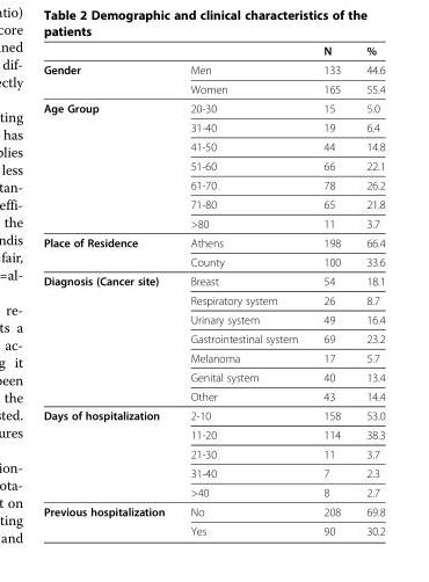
<table><thead><tr><td></td><td></td><td>Ν</td><td>%</td></tr></thead><tbody><tr><td rowspan="2">Gender</td><td>Men</td><td>133</td><td>44.6</td></tr><tr><td>Women</td><td>165</td><td>55.4</td></tr><tr><td rowspan="7">Age Group</td><td>20-30</td><td>15</td><td>5.0</td></tr><tr><td>31-40</td><td>19</td><td>6.4</td></tr><tr><td>41-50</td><td>44</td><td>14.8</td></tr><tr><td>51-60</td><td>66</td><td>22.1</td></tr><tr><td>61-70</td><td>78</td><td>26.2</td></tr><tr><td>71-80</td><td>65</td><td>21.8</td></tr><tr><td>&gt;80</td><td>11</td><td>3.7</td></tr><tr><td rowspan="2">Place of Residence</td><td>Athens</td><td>198</td><td>66.4</td></tr><tr><td>County</td><td>100</td><td>33.6</td></tr><tr><td rowspan="7">Diagnosis (Cancer site)</td><td>Breast</td><td>54</td><td>18.1</td></tr><tr><td>Respiratory system</td><td>26</td><td>8.7</td></tr><tr><td>Urinary system</td><td>49</td><td>16.4</td></tr><tr><td>Gastrointestinal system</td><td>69</td><td>23.2</td></tr><tr><td>Melanoma</td><td>17</td><td>5.7</td></tr><tr><td>Genital system</td><td>40</td><td>13.4</td></tr><tr><td>Other</td><td>43</td><td>14.4</td></tr><tr><td rowspan="5">Days of hospitalization</td><td>2-10</td><td>158</td><td>53.0</td></tr><tr><td>11-20</td><td>114</td><td>38.3</td></tr><tr><td>21-30</td><td>11</td><td>3.7</td></tr><tr><td>31-40</td><td>7</td><td>2.3</td></tr><tr><td>&gt;40</td><td>8</td><td>2.7</td></tr><tr><td rowspan="2">Previous hospitalization</td><td>No</td><td>208</td><td>69.8</td></tr><tr><td>Yes</td><td>90</td><td>30.2</td></tr></tbody></table>